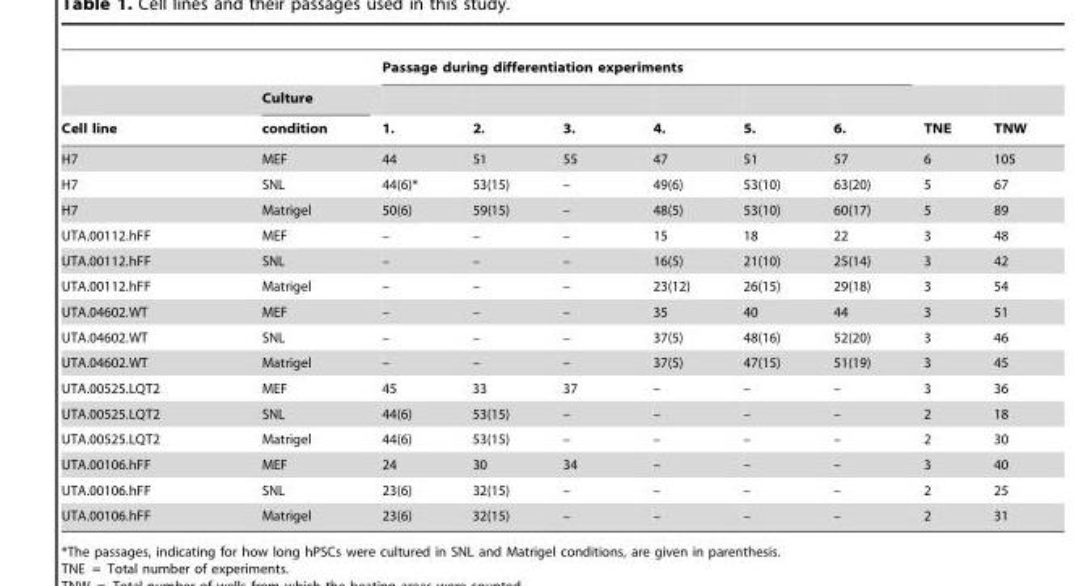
<table><thead><tr><td rowspan="3">Cell line</td><td rowspan="3">Culture condition</td><td colspan="6">Passage during differentiation experiments</td><td rowspan="3">TNE</td><td rowspan="3">TNW</td></tr><tr><td rowspan="2">1.</td><td rowspan="2">2.</td><td rowspan="2">3.</td><td rowspan="2">4.</td><td rowspan="2">5.</td><td rowspan="2">6.</td></tr><tr></tr></thead><tbody><tr><td>H7</td><td>MEF</td><td>44</td><td>51</td><td>55</td><td>47</td><td>51</td><td>57</td><td>6</td><td>105</td></tr><tr><td>H7</td><td>SNL</td><td>44(6)*</td><td>53(15)</td><td>–</td><td>49(6)</td><td>53(10)</td><td>63(20)</td><td>5</td><td>67</td></tr><tr><td>H7</td><td>Matrigel</td><td>50(6)</td><td>59(15)</td><td>–</td><td>48(5)</td><td>53(10)</td><td>60(17)</td><td>5</td><td>89</td></tr><tr><td>UTA.00112.hFF</td><td>MEF</td><td>–</td><td>–</td><td>–</td><td>15</td><td>18</td><td>22</td><td>3</td><td>48</td></tr><tr><td>UTA.00112.hFF</td><td>SNL</td><td>–</td><td>–</td><td>–</td><td>16(5)</td><td>21(10)</td><td>25(14)</td><td>3</td><td>42</td></tr><tr><td>UTA.00112.hFF</td><td>Matrigel</td><td>–</td><td>–</td><td>–</td><td>23(12)</td><td>26(15)</td><td>29(18)</td><td>3</td><td>54</td></tr><tr><td>UTA.04602.WT</td><td>MEF</td><td>–</td><td>–</td><td>–</td><td>35</td><td>40</td><td>44</td><td>3</td><td>51</td></tr><tr><td>UTA.04602.WT</td><td>SNL</td><td>–</td><td>–</td><td>–</td><td>37(5)</td><td>48(16)</td><td>52(20)</td><td>3</td><td>46</td></tr><tr><td>UTA.04602.WT</td><td>Matrigel</td><td>–</td><td>–</td><td>–</td><td>37(5)</td><td>47(15)</td><td>51(19)</td><td>3</td><td>45</td></tr><tr><td>UTA.00525.LQT2</td><td>MEF</td><td>45</td><td>33</td><td>37</td><td>–</td><td>–</td><td>–</td><td>3</td><td>36</td></tr><tr><td>UTA.00525.LQT2</td><td>SNL</td><td>44(6)</td><td>53(15)</td><td>–</td><td>–</td><td>–</td><td>–</td><td>2</td><td>18</td></tr><tr><td>UTA.00525.LQT2</td><td>Matrigel</td><td>44(6)</td><td>53(15)</td><td>–</td><td>–</td><td>–</td><td>–</td><td>2</td><td>30</td></tr><tr><td>UTA.00106.hFF</td><td>MEF</td><td>24</td><td>30</td><td>34</td><td>–</td><td>–</td><td>–</td><td>3</td><td>40</td></tr><tr><td>UTA.00106.hFF</td><td>SNL</td><td>23(6)</td><td>32(15)</td><td>–</td><td>–</td><td>–</td><td>–</td><td>2</td><td>25</td></tr><tr><td>UTA.00106.hFF</td><td>Matrigel</td><td>23(6)</td><td>32(15)</td><td>–</td><td>–</td><td>–</td><td>–</td><td>2</td><td>31</td></tr></tbody></table>